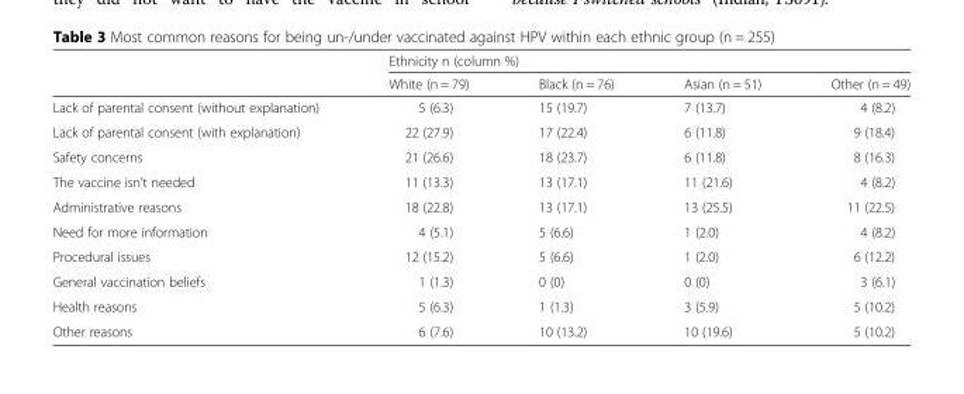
<table><thead><tr><td rowspan="2"></td><td colspan="4">Ethnicity n (column %)</td></tr><tr><td>White (n = 79)</td><td>Black (n = 76)</td><td>Asian (n = 51)</td><td>Other (n = 49)</td></tr></thead><tbody><tr><td>Lack of parental consent (without explanation)</td><td>5 (6.3)</td><td>15 (19.7)</td><td>7 (13.7)</td><td>4 (8.2)</td></tr><tr><td>Lack of parental consent (with explanation)</td><td>22 (27.9)</td><td>17 (22.4)</td><td>6 (11.8)</td><td>9 (18.4)</td></tr><tr><td>Safety concerns</td><td>21 (26.6)</td><td>18 (23.7)</td><td>6 (11.8)</td><td>8 (16.3)</td></tr><tr><td>The vaccine isn’t needed</td><td>11 (13.3)</td><td>13 (17.1)</td><td>11 (21.6)</td><td>4 (8.2)</td></tr><tr><td>Administrative reasons</td><td>18 (22.8)</td><td>13 (17.1)</td><td>13 (25.5)</td><td>11 (22.5)</td></tr><tr><td>Need for more information</td><td>4 (5.1)</td><td>5 (6.6)</td><td>1 (2.0)</td><td>4 (8.2)</td></tr><tr><td>Procedural issues</td><td>12 (15.2)</td><td>5 (6.6)</td><td>1 (2.0)</td><td>6 (12.2)</td></tr><tr><td>General vaccination beliefs</td><td>1 (1.3)</td><td>0 (0)</td><td>0 (0)</td><td>3 (6.1)</td></tr><tr><td>Health reasons</td><td>5 (6.3)</td><td>1 (1.3)</td><td>3 (5.9)</td><td>5 (10.2)</td></tr><tr><td>Other reasons</td><td>6 (7.6)</td><td>10 (13.2)</td><td>10 (19.6)</td><td>5 (10.2)</td></tr></tbody></table>